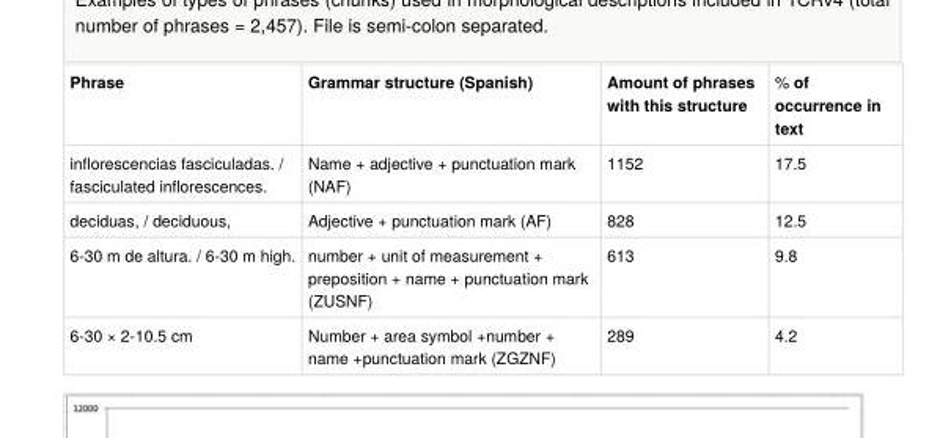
<table><tbody><tr><td>Phrase</td><td>Grammar structure (Spanish)</td><td>Amount of phrases with this structure</td><td>% of occurrence in text</td></tr><tr><td>inflorescencias fasciculadas. / fasciculated inflorescences.</td><td>Name + adjective + punctuation mark (NAF)</td><td>1152</td><td>17.5</td></tr><tr><td>deciduas, / deciduous,</td><td>Adjective + punctuation mark (AF)</td><td>828</td><td>12.5</td></tr><tr><td>6-30 m de altura. / 6-30 m high.</td><td>number + unit of measurement + preposition + name + punctuation mark (ZUSNF)</td><td>613</td><td>9.8</td></tr><tr><td>6-30 × 2-10.5 cm</td><td>Number + area symbol +number + name +punctuation mark (ZGZNF)</td><td>289</td><td>4.2</td></tr></tbody></table>